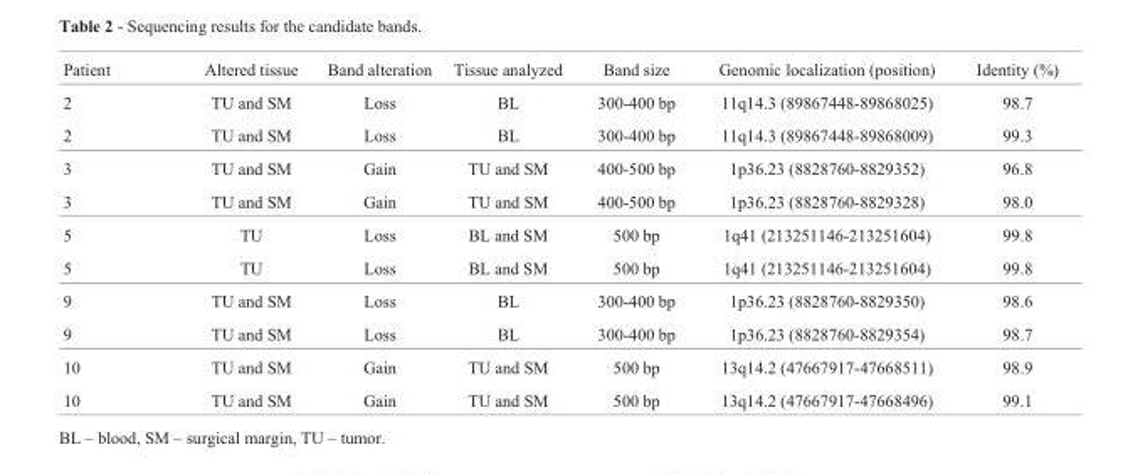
<table><thead><tr><td>Patient</td><td>Altered tissue</td><td>Band alteration</td><td>Tissue analyzed</td><td>Band size</td><td>Genomic localization (position)</td><td>Identity (%)</td></tr></thead><tbody><tr><td>2</td><td>TU and SM</td><td>Loss</td><td>BL</td><td>300-400 bp</td><td>11q14.3 (89867448-89868025)</td><td>98.7</td></tr><tr><td>2</td><td>TU and SM</td><td>Loss</td><td>BL</td><td>300-400 bp</td><td>11q14.3 (89867448-89868009)</td><td>99.3</td></tr><tr><td>3</td><td>TU and SM</td><td>Gain</td><td>TU and SM</td><td>400-500 bp</td><td>1p36.23 (8828760-8829352)</td><td>96.8</td></tr><tr><td>3</td><td>TU and SM</td><td>Gain</td><td>TU and SM</td><td>400-500 bp</td><td>1p36.23 (8828760-8829328)</td><td>98.0</td></tr><tr><td>5</td><td>TU</td><td>Loss</td><td>BL and SM</td><td>500 bp</td><td>1q41 (213251146-213251604)</td><td>99.8</td></tr><tr><td>5</td><td>TU</td><td>Loss</td><td>BL and SM</td><td>500 bp</td><td>1q41 (213251146-213251604)</td><td>99.8</td></tr><tr><td>9</td><td>TU and SM</td><td>Loss</td><td>BL</td><td>300-400 bp</td><td>1p36.23 (8828760-8829350)</td><td>98.6</td></tr><tr><td>9</td><td>TU and SM</td><td>Loss</td><td>BL</td><td>300-400 bp</td><td>1p36.23 (8828760-8829354)</td><td>98.7</td></tr><tr><td>10</td><td>TU and SM</td><td>Gain</td><td>TU and SM</td><td>500 bp</td><td>13q14.2 (47667917-47668511)</td><td>98.9</td></tr><tr><td>10</td><td>TU and SM</td><td>Gain</td><td>TU and SM</td><td>500 bp</td><td>13q14.2 (47667917-47668496)</td><td>99.1</td></tr></tbody></table>